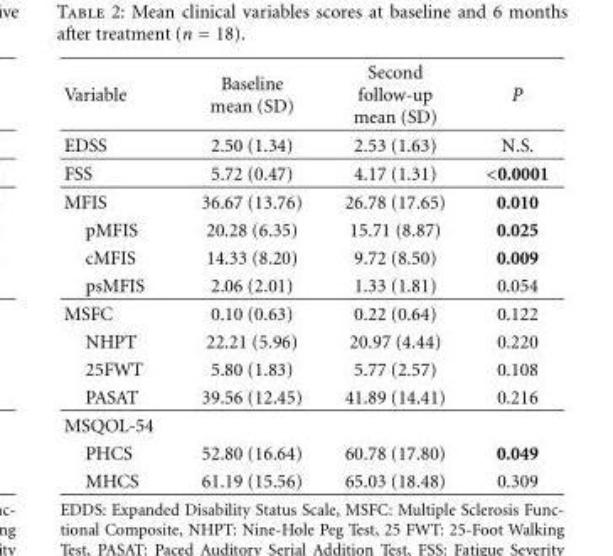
<table><thead><tr><td>Variable</td><td>Baseline mean (SD)</td><td>Second follow-up mean (SD)</td><td>P</td></tr></thead><tbody><tr><td>EDSS</td><td>2.50 (1.34)</td><td>2.53 (1.63)</td><td>N.S.</td></tr><tr><td>FSS</td><td>5.72 (0.47)</td><td>4.17 (1.31)</td><td>&lt;0.0001</td></tr><tr><td>MFIS</td><td>36.67 (13.76)</td><td>26.78 (17.65)</td><td>0.010</td></tr><tr><td>pMFIS</td><td>20.28 (6.35)</td><td>15.71 (8.87)</td><td>0.025</td></tr><tr><td>cMFIS</td><td>14.33 (8.20)</td><td>9.72 (8.50)</td><td>0.009</td></tr><tr><td>psMFIS</td><td>2.06 (2.01)</td><td>1.33 (1.81)</td><td>0.054</td></tr><tr><td>MSFC</td><td>0.10 (0.63)</td><td>0.22 (0.64)</td><td>0.122</td></tr><tr><td>NHPT</td><td>22.21 (5.96)</td><td>20.97 (4.44)</td><td>0.220</td></tr><tr><td>25FWT</td><td>5.80 (1.83)</td><td>5.77 (2.57)</td><td>0.108</td></tr><tr><td>PASAT</td><td>39.56 (12.45)</td><td>41.89 (14.41)</td><td>0.216</td></tr><tr><td colspan="4">MSQOL-54</td></tr><tr><td>PHCS</td><td>52.80 (16.64)</td><td>60.78 (17.80)</td><td>0.049</td></tr><tr><td>MHCS</td><td>61.19 (15.56)</td><td>65.03 (18.48)</td><td>0.309</td></tr></tbody></table>